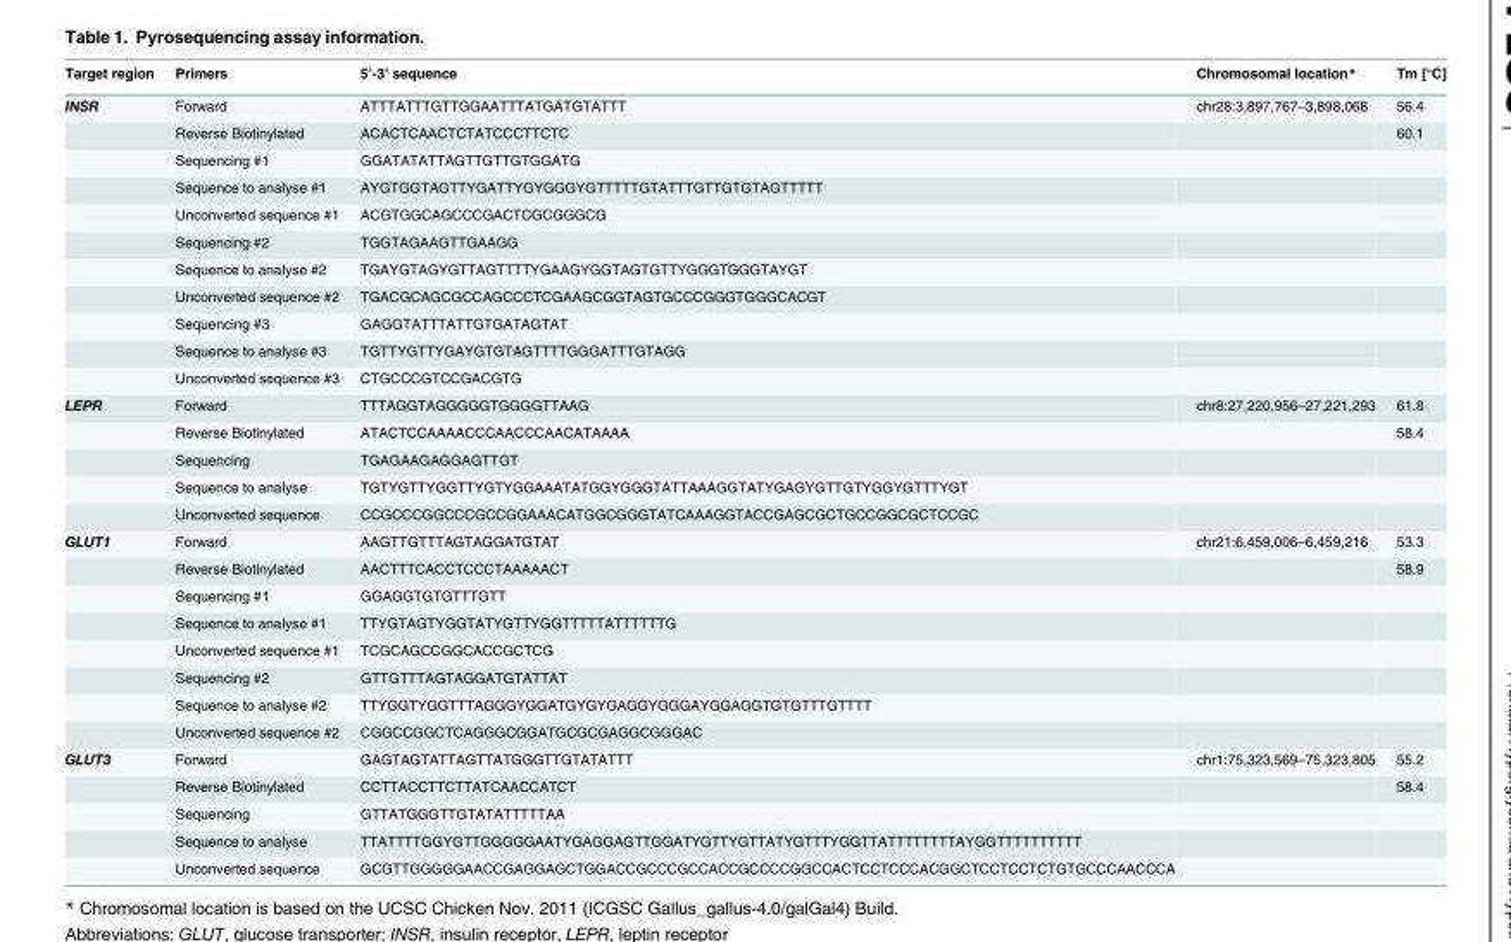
<table><thead><tr><td>Target region</td><td>Primers</td><td>5’-3’ sequence</td><td>Chromosomal location*</td><td>Tm [°C]</td></tr></thead><tbody><tr><td rowspan="11">INSR</td><td>Forward</td><td>ATTTATTTGTTGGAATTTATGATGTATTT</td><td>chr28:3,897,767–3,898,068</td><td>56.4</td></tr><tr><td>Reverse Biotinylated</td><td>ACACTCAACTCTATCCCTTCTC</td><td></td><td>60.1</td></tr><tr><td>Sequencing #1</td><td>GGATATATTAGTTGTTGTGGATG</td><td></td><td></td></tr><tr><td>Sequence to analyse #1</td><td>AYGTGGTAGTTYGATTYGYGGGYGTTTTTGTATTTGTTGTGTAGTTTTT</td><td></td><td></td></tr><tr><td>Unconverted sequence #1</td><td>ACGTGGCAGCCCGACTCGCGGGCG</td><td></td><td></td></tr><tr><td>Sequencing #2</td><td>TGGTAGAAGTTGAAGG</td><td></td><td></td></tr><tr><td>Sequence to analyse #2</td><td>TGAYGTAGYGTTAGTTTTYGAAGYGGTAGTGTTYGGGTGGGTAYGT</td><td></td><td></td></tr><tr><td>Unconverted sequence #2</td><td>TGACGCAGCGCCAGCCCTCGAAGCGGTAGTGCCCGGGTGGGCACGT</td><td></td><td></td></tr><tr><td>Sequencing #3</td><td>GAGGTATTTATTGTGATAGTAT</td><td></td><td></td></tr><tr><td>Sequence to analyse #3</td><td>TGTTYGTTYGAYGTGTAGTTTTGGGATTTGTAGG</td><td></td><td></td></tr><tr><td>Unconverted sequence #3</td><td>CTGCCCGTCCGACGTG</td><td></td><td></td></tr><tr><td rowspan="5">LEPR</td><td>Forward</td><td>TTTAGGTAGGGGGTGGGGTTAAG</td><td>chr8:27,220,956–27,221,293</td><td>61.8</td></tr><tr><td>Reverse Biotinylated</td><td>ATACTCCAAAACCCAACCCAACATAAAA</td><td></td><td>58.4</td></tr><tr><td>Sequencing</td><td>TGAGAAGAGGAGTTGT</td><td></td><td></td></tr><tr><td>Sequence to analyse</td><td>TGTYGTTYGGTTYGTYGGAAATATGGYGGGTATTAAAGGTATYGAGYGTTGTYGGYGTTTYGT</td><td></td><td></td></tr><tr><td>Unconverted sequence</td><td>CCGCCCGGCCCGCCGGAAACATGGCGGGTATCAAAGGTACCGAGCGCTGCCGGCGCTCCGC</td><td></td><td></td></tr><tr><td rowspan="8">GLUT1</td><td>Forward</td><td>AAGTTGTTTAGTAGGATGTAT</td><td>chr21:6,459,006–6,459,216</td><td>53.3</td></tr><tr><td>Reverse Biotinylated</td><td>AACTTTCACCTCCCTAAAAACT</td><td></td><td>58.9</td></tr><tr><td>Sequencing #1</td><td>GGAGGTGTGTTTGTT</td><td></td><td></td></tr><tr><td>Sequence to analyse #1</td><td>TTYGTAGTYGGTATYGTTYGGTTTTTATTTTTTG</td><td></td><td></td></tr><tr><td>Unconverted sequence #1</td><td>TCGCAGCCGGCACCGCTCG</td><td></td><td></td></tr><tr><td>Sequencing #2</td><td>GTTGTTTAGTAGGATGTATTAT</td><td></td><td></td></tr><tr><td>Sequence to analyse #2</td><td>TTYGGTYGGTTTAGGGYGGATGYGYGAGGYGGGAYGGAGGTGTGTTTGTTTT</td><td></td><td></td></tr><tr><td>Unconverted sequence #2</td><td>CGGCCGGCTCAGGGCGGATGCGCGAGGCGGGAC</td><td></td><td></td></tr><tr><td rowspan="5">GLUT3</td><td>Forward</td><td>GAGTAGTATTAGTTATGGGTTGTATATTT</td><td>chr1:75,323,569–75,323,805</td><td>55.2</td></tr><tr><td>Reverse Biotinylated</td><td>CCTTACCTTCTTATCAACCATCT</td><td></td><td>58.4</td></tr><tr><td>Sequencing</td><td>GTTATGGGTTGTATATTTTTAA</td><td></td><td></td></tr><tr><td>Sequence to analyse</td><td>TTATTTTGGYGTTGGGGGAATYGAGGAGTTGGATYGTTYGTTATYGTTTYGGTTATTTTTTTTAYGGTTTTTTTTTT</td><td></td><td></td></tr><tr><td>Unconverted sequence</td><td>GCGTTGGGGGAACCGAGGAGCTGGACCGCCCGCCACCGCCCCGGCCACTCCTCCCACGGCTCCTCCTCTGTGCCCAACCCA</td><td></td><td></td></tr></tbody></table>